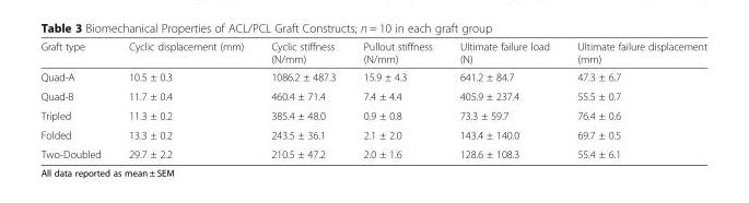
<table><thead><tr><td>Graft type</td><td>Cyclic displacement (mm)</td><td>Cyclic stiffness (N/mm)</td><td>Pullout stiffness (N/mm)</td><td>Ultimate failure load (N)</td><td>Ultimate failure displacement (mm)</td></tr></thead><tbody><tr><td>Quad-A</td><td>10.5 ± 0.3</td><td>1086.2 ± 487.3</td><td>15.9 ± 4.3</td><td>641.2 ± 84.7</td><td>47.3 ± 6.7</td></tr><tr><td>Quad-B</td><td>11.7 ± 0.4</td><td>460.4 ± 71.4</td><td>7.4 ± 4.4</td><td>405.9 ± 237.4</td><td>55.5 ± 0.7</td></tr><tr><td>Tripled</td><td>11.3 ± 0.2</td><td>385.4 ± 48.0</td><td>0.9 ± 0.8</td><td>73.3 ± 59.7</td><td>76.4 ± 0.6</td></tr><tr><td>Folded</td><td>13.3 ± 0.2</td><td>243.5 ± 36.1</td><td>2.1 ± 2.0</td><td>143.4 ± 140.0</td><td>69.7 ± 0.5</td></tr><tr><td>Two-Doubled</td><td>29.7 ± 2.2</td><td>210.5 ± 47.2</td><td>2.0 ± 1.6</td><td>128.6 ± 108.3</td><td>55.4 ± 6.1</td></tr></tbody></table>